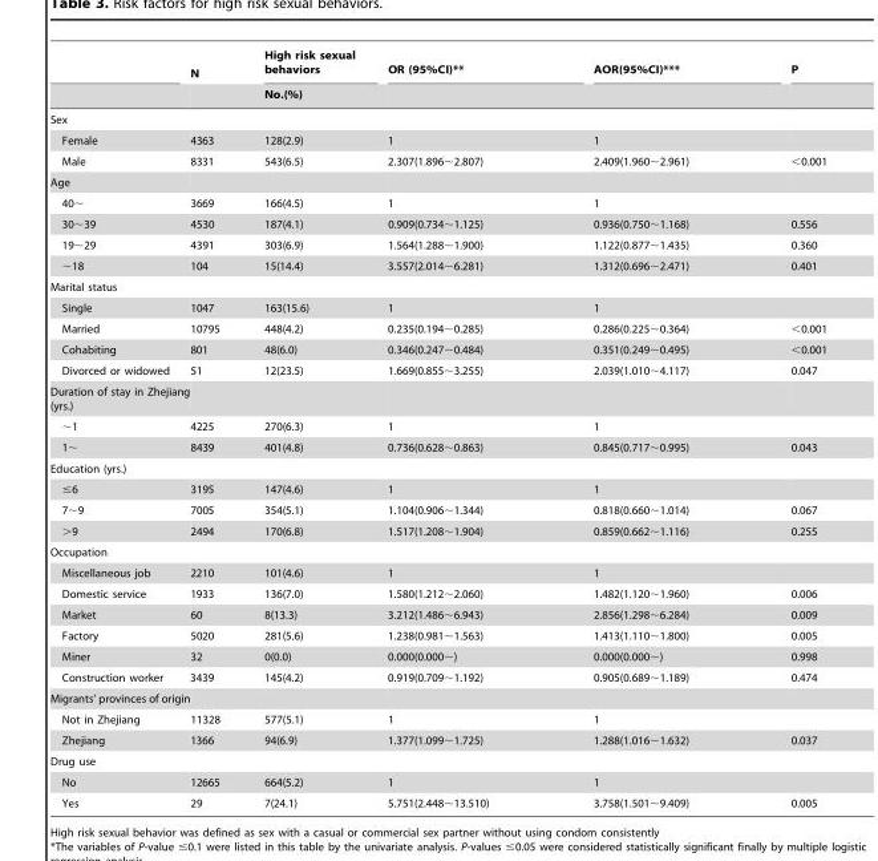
<table><thead><tr><td rowspan="2"></td><td rowspan="2">N</td><td rowspan="2">High risk sexual behaviors No.(%)</td><td rowspan="2">OR (95%CI)**</td><td rowspan="2">AOR(95%CI)***</td><td rowspan="2">P</td></tr><tr></tr></thead><tbody><tr><td colspan="6">Sex</td></tr><tr><td>Female</td><td>4363</td><td>128(2.9)</td><td>1</td><td>1</td><td></td></tr><tr><td>Male</td><td>8331</td><td>543(6.5)</td><td>2.307(1.896∼2.807)</td><td>2.409(1.960∼2.961)</td><td>&lt;0.001</td></tr><tr><td colspan="6">Age</td></tr><tr><td>40∼</td><td>3669</td><td>166(4.5)</td><td>1</td><td>1</td><td></td></tr><tr><td>30∼39</td><td>4530</td><td>187(4.1)</td><td>0.909(0.734∼1.125)</td><td>0.936(0.750∼1.168)</td><td>0.556</td></tr><tr><td>19∼29</td><td>4391</td><td>303(6.9)</td><td>1.564(1.288∼1.900)</td><td>1.122(0.877∼1.435)</td><td>0.360</td></tr><tr><td>∼18</td><td>104</td><td>15(14.4)</td><td>3.557(2.014∼6.281)</td><td>1.312(0.696∼2.471)</td><td>0.401</td></tr><tr><td colspan="6">Marital status</td></tr><tr><td>Single</td><td>1047</td><td>163(15.6)</td><td>1</td><td>1</td><td></td></tr><tr><td>Married</td><td>10795</td><td>448(4.2)</td><td>0.235(0.194∼0.285)</td><td>0.286(0.225∼0.364)</td><td>&lt;0.001</td></tr><tr><td>Cohabiting</td><td>801</td><td>48(6.0)</td><td>0.346(0.247∼0.484)</td><td>0.351(0.249∼0.495)</td><td>&lt;0.001</td></tr><tr><td>Divorced or widowed</td><td>51</td><td>12(23.5)</td><td>1.669(0.855∼3.255)</td><td>2.039(1.010∼4.117)</td><td>0.047</td></tr><tr><td colspan="6">Duration of stay in Zhejiang (yrs.)</td></tr><tr><td>∼1</td><td>4225</td><td>270(6.3)</td><td>1</td><td>1</td><td></td></tr><tr><td>1∼</td><td>8439</td><td>401(4.8)</td><td>0.736(0.628∼0.863)</td><td>0.845(0.717∼0.995)</td><td>0.043</td></tr><tr><td colspan="6">Education (yrs.)</td></tr><tr><td>≤6</td><td>3195</td><td>147(4.6)</td><td>1</td><td>1</td><td></td></tr><tr><td>7∼9</td><td>7005</td><td>354(5.1)</td><td>1.104(0.906∼1.344)</td><td>0.818(0.660∼1.014)</td><td>0.067</td></tr><tr><td>&gt;9</td><td>2494</td><td>170(6.8)</td><td>1.517(1.208∼1.904)</td><td>0.859(0.662∼1.116)</td><td>0.255</td></tr><tr><td colspan="6">Occupation</td></tr><tr><td>Miscellaneous job</td><td>2210</td><td>101(4.6)</td><td>1</td><td>1</td><td></td></tr><tr><td>Domestic service</td><td>1933</td><td>136(7.0)</td><td>1.580(1.212∼2.060)</td><td>1.482(1.120∼1.960)</td><td>0.006</td></tr><tr><td>Market</td><td>60</td><td>8(13.3)</td><td>3.212(1.486∼6.943)</td><td>2.856(1.298∼6.284)</td><td>0.009</td></tr><tr><td>Factory</td><td>5020</td><td>281(5.6)</td><td>1.238(0.981∼1.563)</td><td>1.413(1.110∼1.800)</td><td>0.005</td></tr><tr><td>Miner</td><td>32</td><td>0(0.0)</td><td>0.000(0.000∼)</td><td>0.000(0.000∼)</td><td>0.998</td></tr><tr><td>Construction worker</td><td>3439</td><td>145(4.2)</td><td>0.919(0.709∼1.192)</td><td>0.905(0.689∼1.189)</td><td>0.474</td></tr><tr><td colspan="6">Migrants’ provinces of origin</td></tr><tr><td>Not in Zhejiang</td><td>11328</td><td>577(5.1)</td><td>1</td><td>1</td><td></td></tr><tr><td>Zhejiang</td><td>1366</td><td>94(6.9)</td><td>1.377(1.099∼1.725)</td><td>1.288(1.016∼1.632)</td><td>0.037</td></tr><tr><td colspan="6">Drug use</td></tr><tr><td>No</td><td>12665</td><td>664(5.2)</td><td>1</td><td>1</td><td></td></tr><tr><td>Yes</td><td>29</td><td>7(24.1)</td><td>5.751(2.448∼13.510)</td><td>3.758(1.501∼9.409)</td><td>0.005</td></tr></tbody></table>